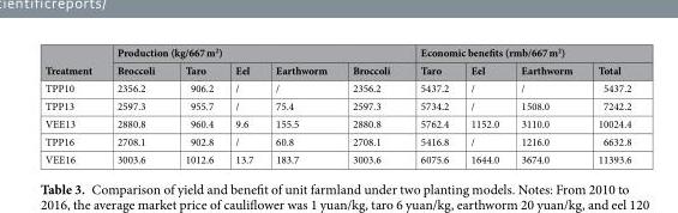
<table><thead><tr><td rowspan="2">Treatment</td><td colspan="5">Production (kg/667 m<sup>2</sup>)</td><td colspan="4">Economic benefits (rmb/667 m<sup>2</sup>)</td></tr><tr><td>Broccoli</td><td>Taro</td><td>Eel</td><td>Earthworm</td><td>Broccoli</td><td>Taro</td><td>Eel</td><td>Earthworm</td><td>Total</td></tr></thead><tbody><tr><td>TPP10</td><td>2356.2</td><td>906.2</td><td>/</td><td>/</td><td>2356.2</td><td>5437.2</td><td>/</td><td>/</td><td>5437.2</td></tr><tr><td>TPP13</td><td>2597.3</td><td>955.7</td><td>/</td><td>75.4</td><td>2597.3</td><td>5734.2</td><td>/</td><td>1508.0</td><td>7242.2</td></tr><tr><td>VEE13</td><td>2880.8</td><td>960.4</td><td>9.6</td><td>155.5</td><td>2880.8</td><td>5762.4</td><td>1152.0</td><td>3110.0</td><td>10024.4</td></tr><tr><td>TPP16</td><td>2708.1</td><td>902.8</td><td>/</td><td>60.8</td><td>2708.1</td><td>5416.8</td><td>/</td><td>1216.0</td><td>6632.8</td></tr><tr><td>VEE16</td><td>3003.6</td><td>1012.6</td><td>13.7</td><td>183.7</td><td>3003.6</td><td>6075.6</td><td>1644.0</td><td>3674.0</td><td>11393.6</td></tr></tbody></table>